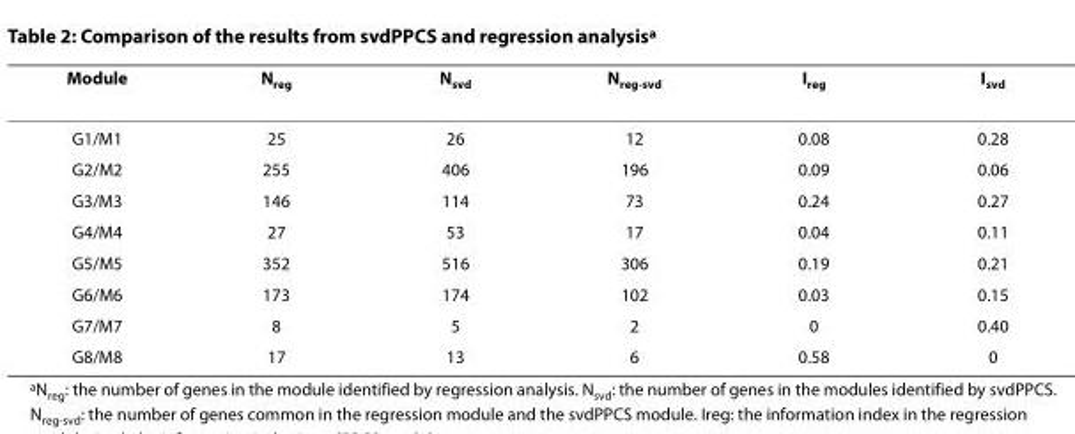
<table><thead><tr><td>Module</td><td>N<sub>reg</sub></td><td>N<sub>svd</sub></td><td>N<sub>reg-svd</sub></td><td>I<sub>reg</sub></td><td>I<sub>svd</sub></td></tr></thead><tbody><tr><td>G1/M1</td><td>25</td><td>26</td><td>12</td><td>0.08</td><td>0.28</td></tr><tr><td>G2/M2</td><td>255</td><td>406</td><td>196</td><td>0.09</td><td>0.06</td></tr><tr><td>G3/M3</td><td>146</td><td>114</td><td>73</td><td>0.24</td><td>0.27</td></tr><tr><td>G4/M4</td><td>27</td><td>53</td><td>17</td><td>0.04</td><td>0.11</td></tr><tr><td>G5/M5</td><td>352</td><td>516</td><td>306</td><td>0.19</td><td>0.21</td></tr><tr><td>G6/M6</td><td>173</td><td>174</td><td>102</td><td>0.03</td><td>0.15</td></tr><tr><td>G7/M7</td><td>8</td><td>5</td><td>2</td><td>0</td><td>0.40</td></tr><tr><td>G8/M8</td><td>17</td><td>13</td><td>6</td><td>0.58</td><td>0</td></tr></tbody></table>